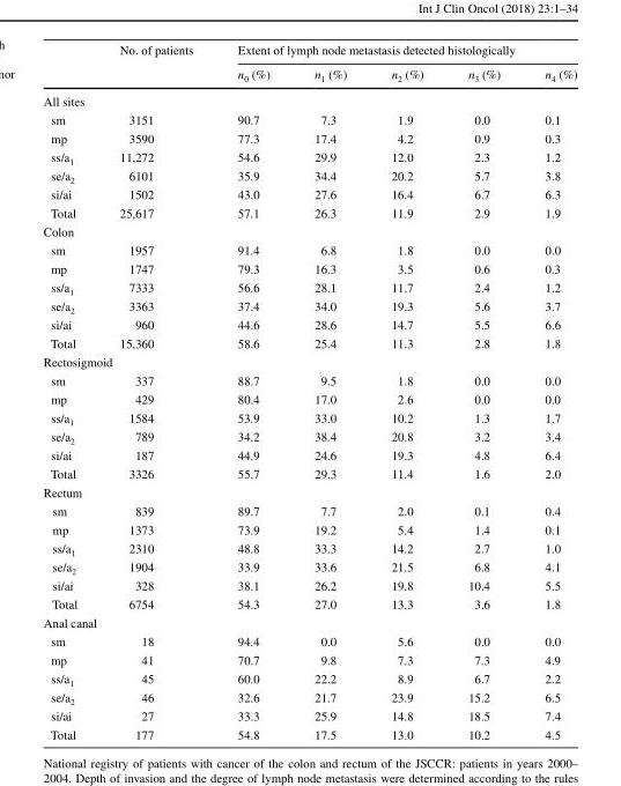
<table><thead><tr><td rowspan="2"></td><td rowspan="2">No. of patients</td><td colspan="5">Extent of lymph node metastasis detected histologically</td></tr><tr><td>n<sub>0</sub> (%)</td><td>n<sub>1</sub> (%)</td><td>n<sub>2</sub> (%)</td><td>n<sub>3</sub> (%)</td><td>n<sub>4</sub> (%)</td></tr></thead><tbody><tr><td colspan="7">All sites</td></tr><tr><td>sm</td><td>3151</td><td>90.7</td><td>7.3</td><td>1.9</td><td>0.0</td><td>0.1</td></tr><tr><td>mp</td><td>3590</td><td>77.3</td><td>17.4</td><td>4.2</td><td>0.9</td><td>0.3</td></tr><tr><td>ss/a<sub>1</sub></td><td>11,272</td><td>54.6</td><td>29.9</td><td>12.0</td><td>2.3</td><td>1.2</td></tr><tr><td>se/a<sub>2</sub></td><td>6101</td><td>35.9</td><td>34.4</td><td>20.2</td><td>5.7</td><td>3.8</td></tr><tr><td>si/ai</td><td>1502</td><td>43.0</td><td>27.6</td><td>16.4</td><td>6.7</td><td>6.3</td></tr><tr><td>Total</td><td>25,617</td><td>57.1</td><td>26.3</td><td>11.9</td><td>2.9</td><td>1.9</td></tr><tr><td colspan="7">Colon</td></tr><tr><td>sm</td><td>1957</td><td>91.4</td><td>6.8</td><td>1.8</td><td>0.0</td><td>0.0</td></tr><tr><td>mp</td><td>1747</td><td>79.3</td><td>16.3</td><td>3.5</td><td>0.6</td><td>0.3</td></tr><tr><td>ss/a<sub>1</sub></td><td>7333</td><td>56.6</td><td>28.1</td><td>11.7</td><td>2.4</td><td>1.2</td></tr><tr><td>se/a<sub>2</sub></td><td>3363</td><td>37.4</td><td>34.0</td><td>19.3</td><td>5.6</td><td>3.7</td></tr><tr><td>si/ai</td><td>960</td><td>44.6</td><td>28.6</td><td>14.7</td><td>5.5</td><td>6.6</td></tr><tr><td>Total</td><td>15,360</td><td>58.6</td><td>25.4</td><td>11.3</td><td>2.8</td><td>1.8</td></tr><tr><td colspan="7">Rectosigmoid</td></tr><tr><td>sm</td><td>337</td><td>88.7</td><td>9.5</td><td>1.8</td><td>0.0</td><td>0.0</td></tr><tr><td>mp</td><td>429</td><td>80.4</td><td>17.0</td><td>2.6</td><td>0.0</td><td>0.0</td></tr><tr><td>ss/a<sub>1</sub></td><td>1584</td><td>53.9</td><td>33.0</td><td>10.2</td><td>1.3</td><td>1.7</td></tr><tr><td>se/a<sub>2</sub></td><td>789</td><td>34.2</td><td>38.4</td><td>20.8</td><td>3.2</td><td>3.4</td></tr><tr><td>si/ai</td><td>187</td><td>44.9</td><td>24.6</td><td>19.3</td><td>4.8</td><td>6.4</td></tr><tr><td>Total</td><td>3326</td><td>55.7</td><td>29.3</td><td>11.4</td><td>1.6</td><td>2.0</td></tr><tr><td colspan="7">Rectum</td></tr><tr><td>sm</td><td>839</td><td>89.7</td><td>7.7</td><td>2.0</td><td>0.1</td><td>0.4</td></tr><tr><td>mp</td><td>1373</td><td>73.9</td><td>19.2</td><td>5.4</td><td>1.4</td><td>0.1</td></tr><tr><td>ss/a<sub>1</sub></td><td>2310</td><td>48.8</td><td>33.3</td><td>14.2</td><td>2.7</td><td>1.0</td></tr><tr><td>se/a<sub>2</sub></td><td>1904</td><td>33.9</td><td>33.6</td><td>21.5</td><td>6.8</td><td>4.1</td></tr><tr><td>si/ai</td><td>328</td><td>38.1</td><td>26.2</td><td>19.8</td><td>10.4</td><td>5.5</td></tr><tr><td>Total</td><td>6754</td><td>54.3</td><td>27.0</td><td>13.3</td><td>3.6</td><td>1.8</td></tr><tr><td colspan="7">Anal canal</td></tr><tr><td>sm</td><td>18</td><td>94.4</td><td>0.0</td><td>5.6</td><td>0.0</td><td>0.0</td></tr><tr><td>mp</td><td>41</td><td>70.7</td><td>9.8</td><td>7.3</td><td>7.3</td><td>4.9</td></tr><tr><td>ss/a<sub>1</sub></td><td>45</td><td>60.0</td><td>22.2</td><td>8.9</td><td>6.7</td><td>2.2</td></tr><tr><td>se/a<sub>2</sub></td><td>46</td><td>32.6</td><td>21.7</td><td>23.9</td><td>15.2</td><td>6.5</td></tr><tr><td>si/ai</td><td>27</td><td>33.3</td><td>25.9</td><td>14.8</td><td>18.5</td><td>7.4</td></tr><tr><td>Total</td><td>177</td><td>54.8</td><td>17.5</td><td>13.0</td><td>10.2</td><td>4.5</td></tr></tbody></table>